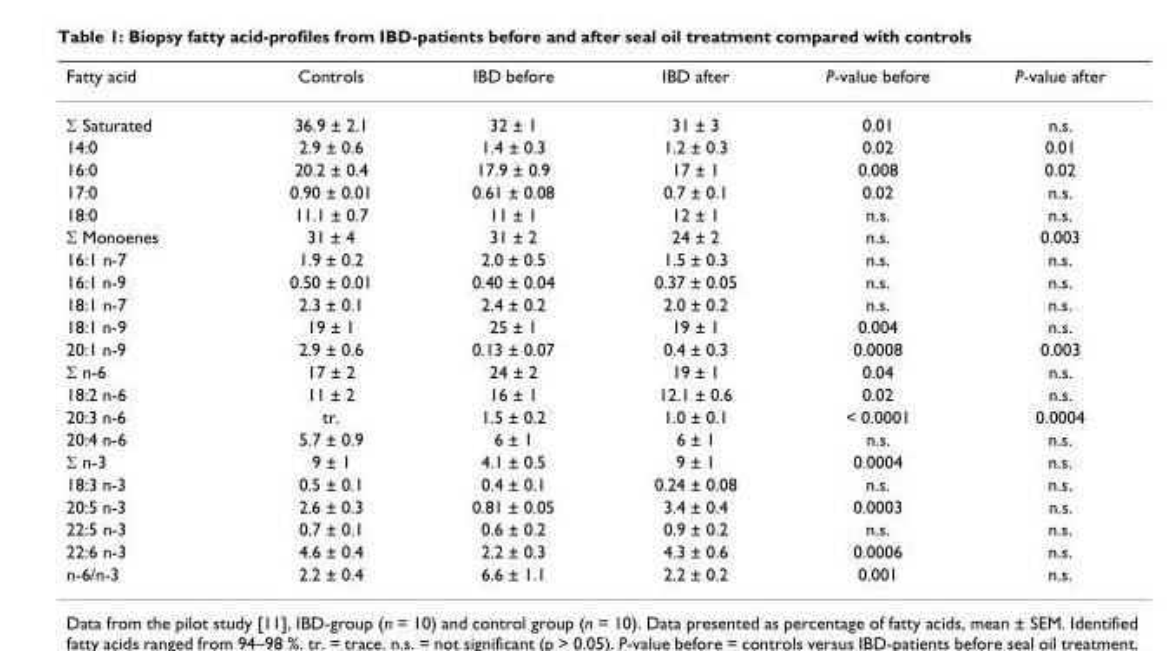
<table><thead><tr><td>Fatty acid</td><td>Controls</td><td>IBD before</td><td>IBD after</td><td>P-value before</td><td>P-value after</td></tr></thead><tbody><tr><td>Σ Saturated</td><td>36.9 ± 2.1</td><td>32 ± 1</td><td>31 ± 3</td><td>0.01</td><td>n.s.</td></tr><tr><td>14:0</td><td>2.9 ± 0.6</td><td>1.4 ± 0.3</td><td>1.2 ± 0.3</td><td>0.02</td><td>0.01</td></tr><tr><td>16:0</td><td>20.2 ± 0.4</td><td>17.9 ± 0.9</td><td>17 ± 1</td><td>0.008</td><td>0.02</td></tr><tr><td>17:0</td><td>0.90 ± 0.01</td><td>0.61 ± 0.08</td><td>0.7 ± 0.1</td><td>0.02</td><td>n.s.</td></tr><tr><td>18:0</td><td>11.1 ± 0.7</td><td>11 ± 1</td><td>12 ± 1</td><td>n.s.</td><td>n.s.</td></tr><tr><td>Σ Monoenes</td><td>31 ± 4</td><td>31 ± 2</td><td>24 ± 2</td><td>n.s.</td><td>0.003</td></tr><tr><td>16:1 n-7</td><td>1.9 ± 0.2</td><td>2.0 ± 0.5</td><td>1.5 ± 0.3</td><td>n.s.</td><td>n.s.</td></tr><tr><td>16:1 n-9</td><td>0.50 ± 0.01</td><td>0.40 ± 0.04</td><td>0.37 ± 0.05</td><td>n.s.</td><td>n.s.</td></tr><tr><td>18:1 n-7</td><td>2.3 ± 0.1</td><td>2.4 ± 0.2</td><td>2.0 ± 0.2</td><td>n.s.</td><td>n.s.</td></tr><tr><td>18:1 n-9</td><td>19 ± 1</td><td>25 ± 1</td><td>19 ± 1</td><td>0.004</td><td>n.s.</td></tr><tr><td>20:1 n-9</td><td>2.9 ± 0.6</td><td>0.13 ± 0.07</td><td>0.4 ± 0.3</td><td>0.0008</td><td>0.003</td></tr><tr><td>Σ n-6</td><td>17 ± 2</td><td>24 ± 2</td><td>19 ± 1</td><td>0.04</td><td>n.s.</td></tr><tr><td>18:2 n-6</td><td>11 ± 2</td><td>16 ± 1</td><td>12.1 ± 0.6</td><td>0.02</td><td>n.s.</td></tr><tr><td>20:3 n-6</td><td>tr.</td><td>1.5 ± 0.2</td><td>1.0 ± 0.1</td><td>&lt; 0.0001</td><td>0.0004</td></tr><tr><td>20:4 n-6</td><td>5.7 ± 0.9</td><td>6 ± 1</td><td>6 ± 1</td><td>n.s.</td><td>n.s.</td></tr><tr><td>Σ n-3</td><td>9 ± 1</td><td>4.1 ± 0.5</td><td>9 ± 1</td><td>0.0004</td><td>n.s.</td></tr><tr><td>18:3 n-3</td><td>0.5 ± 0.1</td><td>0.4 ± 0.1</td><td>0.24 ± 0.08</td><td>n.s.</td><td>n.s.</td></tr><tr><td>20:5 n-3</td><td>2.6 ± 0.3</td><td>0.81 ± 0.05</td><td>3.4 ± 0.4</td><td>0.0003</td><td>n.s.</td></tr><tr><td>22:5 n-3</td><td>0.7 ± 0.1</td><td>0.6 ± 0.2</td><td>0.9 ± 0.2</td><td>n.s.</td><td>n.s.</td></tr><tr><td>22:6 n-3</td><td>4.6 ± 0.4</td><td>2.2 ± 0.3</td><td>4.3 ± 0.6</td><td>0.0006</td><td>n.s.</td></tr><tr><td>n-6/n-3</td><td>2.2 ± 0.4</td><td>6.6 ± 1.1</td><td>2.2 ± 0.2</td><td>0.001</td><td>n.s.</td></tr></tbody></table>